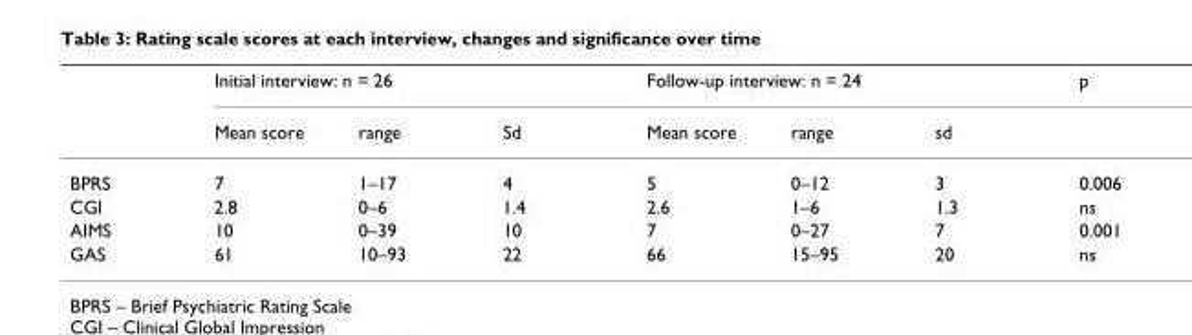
<table><thead><tr><td rowspan="2"></td><td colspan="3">Initial interview: n = 26</td><td colspan="3">Follow-up interview: n = 24</td><td rowspan="2">p</td></tr><tr><td>Mean score</td><td>range</td><td>Sd</td><td>Mean score</td><td>range</td><td>sd</td></tr></thead><tbody><tr><td>BPRS</td><td>7</td><td>1–17</td><td>4</td><td>5</td><td>0–12</td><td>3</td><td>0.006</td></tr><tr><td>CGI</td><td>2.8</td><td>0–6</td><td>1.4</td><td>2.6</td><td>1–6</td><td>1.3</td><td>ns</td></tr><tr><td>AIMS</td><td>10</td><td>0–39</td><td>10</td><td>7</td><td>0–27</td><td>7</td><td>0.001</td></tr><tr><td>GAS</td><td>61</td><td>10–93</td><td>22</td><td>66</td><td>15–95</td><td>20</td><td>ns</td></tr></tbody></table>